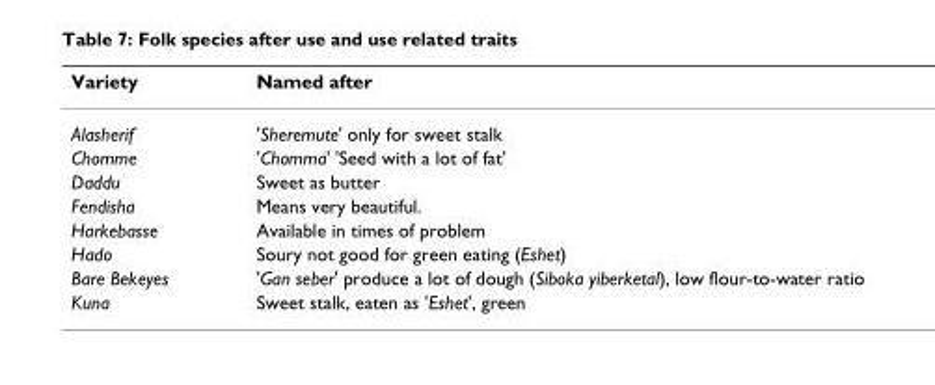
<table><thead><tr><td>Variety</td><td>Named after</td></tr></thead><tbody><tr><td>Alasherif</td><td>&#x27;Sheremute&#x27; only for sweet stalk</td></tr><tr><td>Chomme</td><td>&#x27;Chomma&#x27; &#x27;Seed with a lot of fat&#x27;</td></tr><tr><td>Daddu</td><td>Sweet as butter</td></tr><tr><td>Fendisha</td><td>Means very beautiful.</td></tr><tr><td>Harkebasse</td><td>Available in times of problem</td></tr><tr><td>Hado</td><td>Soury not good for green eating (Eshet)</td></tr><tr><td>Bare Bekeyes</td><td>&#x27;Gan seber&#x27; produce a lot of dough (Siboka yiberketal), low flour-to-water ratio</td></tr><tr><td>Kuna</td><td>Sweet stalk, eaten as &#x27;Eshet&#x27;, green</td></tr></tbody></table>